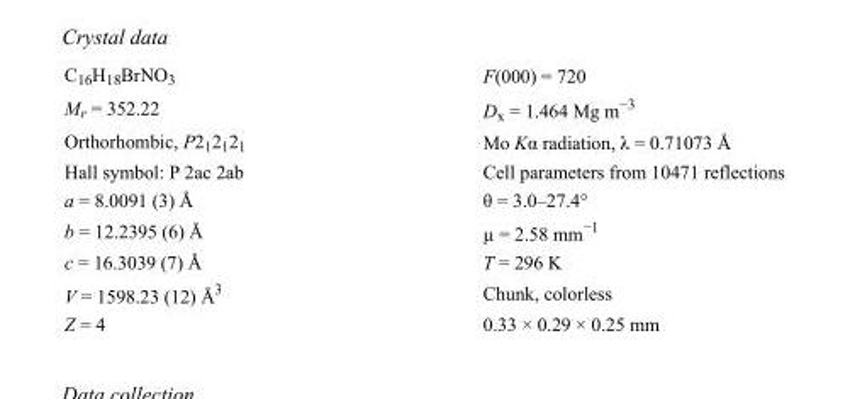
<table><tbody><tr><td>C<sub>16</sub>H<sub>18</sub>BrNO<sub>3</sub></td><td>F(000) = 720</td></tr><tr><td>M<sub>r</sub> = 352.22</td><td>D<sub>x</sub> = 1.464 Mg m<sup>−3</sup></td></tr><tr><td>Orthorhombic, P2<sub>1</sub>2<sub>1</sub>2<sub>1</sub></td><td>Mo Kα radiation, λ = 0.71073 Å</td></tr><tr><td>Hall symbol: P 2ac 2ab</td><td>Cell parameters from 10471 reflections</td></tr><tr><td>a = 8.0091 (3) Å</td><td>θ = 3.0–27.4°</td></tr><tr><td>b = 12.2395 (6) Å</td><td>µ = 2.58 mm<sup>−1</sup></td></tr><tr><td>c = 16.3039 (7) Å</td><td>T = 296 K</td></tr><tr><td>V = 1598.23 (12) Å<sup>3</sup></td><td>Chunk, colorless</td></tr><tr><td>Z = 4</td><td>0.33 × 0.29 × 0.25 mm</td></tr></tbody></table>